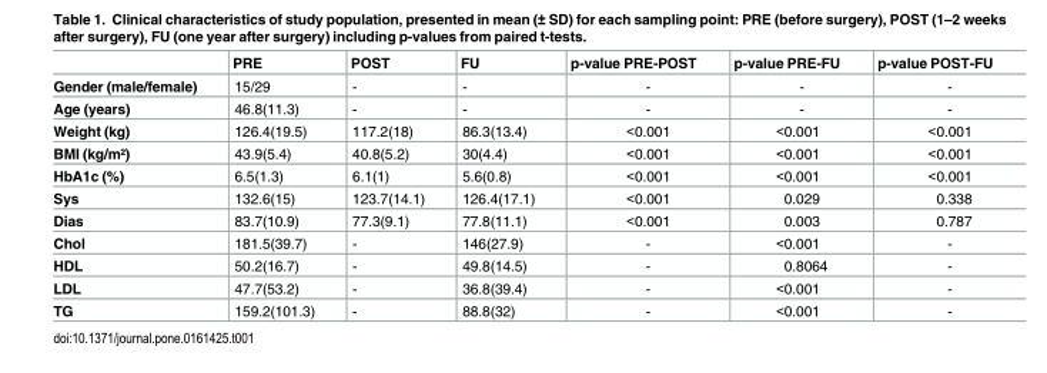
<table><thead><tr><td></td><td>PRE</td><td>POST</td><td>FU</td><td>p-value PRE-POST</td><td>p-value PRE-FU</td><td>p-value POST-FU</td></tr></thead><tbody><tr><td>Gender (male/female)</td><td>15/29</td><td>-</td><td>-</td><td>-</td><td>-</td><td>-</td></tr><tr><td>Age (years)</td><td>46.8(11.3)</td><td>-</td><td>-</td><td>-</td><td>-</td><td>-</td></tr><tr><td>Weight (kg)</td><td>126.4(19.5)</td><td>117.2(18)</td><td>86.3(13.4)</td><td>&lt;0.001</td><td>&lt;0.001</td><td>&lt;0.001</td></tr><tr><td>BMI (kg/m²)</td><td>43.9(5.4)</td><td>40.8(5.2)</td><td>30(4.4)</td><td>&lt;0.001</td><td>&lt;0.001</td><td>&lt;0.001</td></tr><tr><td>HbA1c (%)</td><td>6.5(1.3)</td><td>6.1(1)</td><td>5.6(0.8)</td><td>&lt;0.001</td><td>&lt;0.001</td><td>&lt;0.001</td></tr><tr><td>Sys</td><td>132.6(15)</td><td>123.7(14.1)</td><td>126.4(17.1)</td><td>&lt;0.001</td><td>0.029</td><td>0.338</td></tr><tr><td>Dias</td><td>83.7(10.9)</td><td>77.3(9.1)</td><td>77.8(11.1)</td><td>&lt;0.001</td><td>0.003</td><td>0.787</td></tr><tr><td>Chol</td><td>181.5(39.7)</td><td>-</td><td>146(27.9)</td><td>-</td><td>&lt;0.001</td><td>-</td></tr><tr><td>HDL</td><td>50.2(16.7)</td><td>-</td><td>49.8(14.5)</td><td>-</td><td>0.8064</td><td>-</td></tr><tr><td>LDL</td><td>47.7(53.2)</td><td>-</td><td>36.8(39.4)</td><td>-</td><td>&lt;0.001</td><td>-</td></tr><tr><td>TG</td><td>159.2(101.3)</td><td>-</td><td>88.8(32)</td><td>-</td><td>&lt;0.001</td><td>-</td></tr></tbody></table>